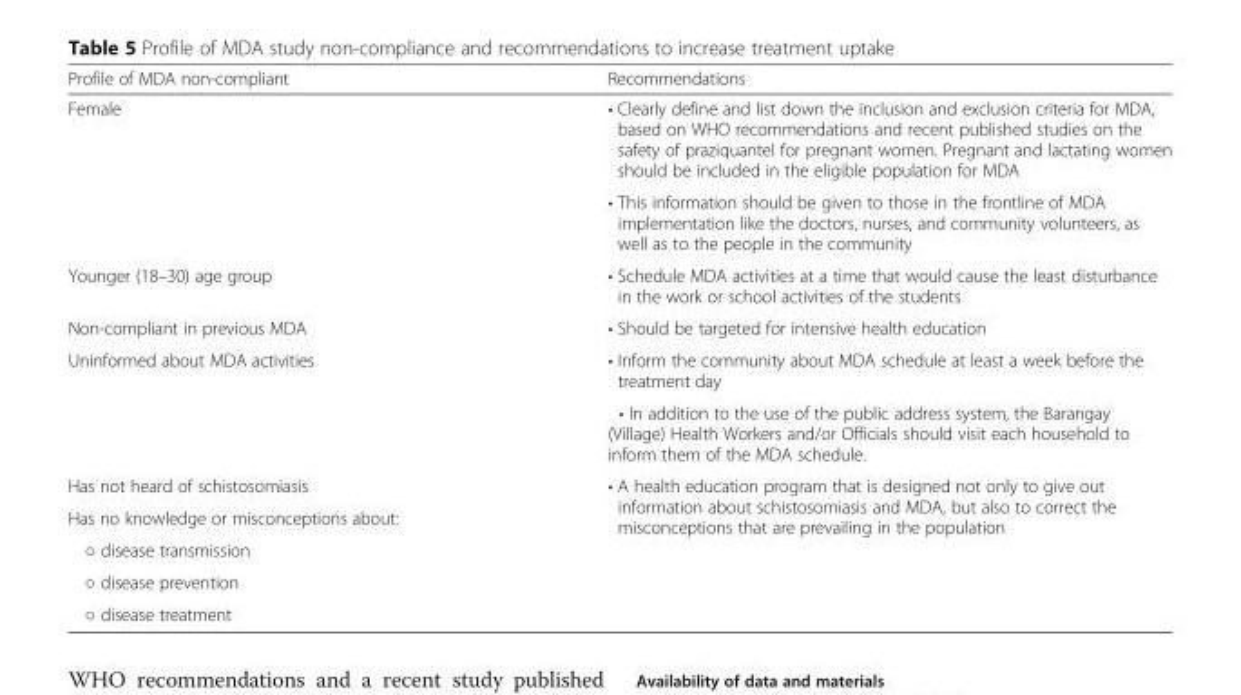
<table><thead><tr><td>Profile of MDA non-compliant</td><td>Recommendations</td></tr></thead><tbody><tr><td rowspan="2">Female</td><td>• Clearly define and list down the inclusion and exclusion criteria for MDA, based on WHO recommendations and recent published studies on the safety of praziquantel for pregnant women. Pregnant and lactating women should be included in the eligible population for MDA</td></tr><tr><td>• This information should be given to those in the frontline of MDA implementation like the doctors, nurses, and community volunteers, as well as to the people in the community</td></tr><tr><td>Younger (18–30) age group</td><td>• Schedule MDA activities at a time that would cause the least disturbance in the work or school activities of the students</td></tr><tr><td>Non-compliant in previous MDA</td><td>• Should be targeted for intensive health education</td></tr><tr><td rowspan="2">Uninformed about MDA activities</td><td>• Inform the community about MDA schedule at least a week before the treatment day</td></tr><tr><td>• In addition to the use of the public address system, the Barangay (Village) Health Workers and/or Officials should visit each household to inform them of the MDA schedule.</td></tr><tr><td>Has not heard of schistosomiasis</td><td rowspan="5">• A health education program that is designed not only to give out information about schistosomiasis and MDA, but also to correct the misconceptions that are prevailing in the population</td></tr><tr><td>Has no knowledge or misconceptions about:</td></tr><tr><td>○ disease transmission</td></tr><tr><td>○ disease prevention</td></tr><tr><td>○ disease treatment</td></tr></tbody></table>